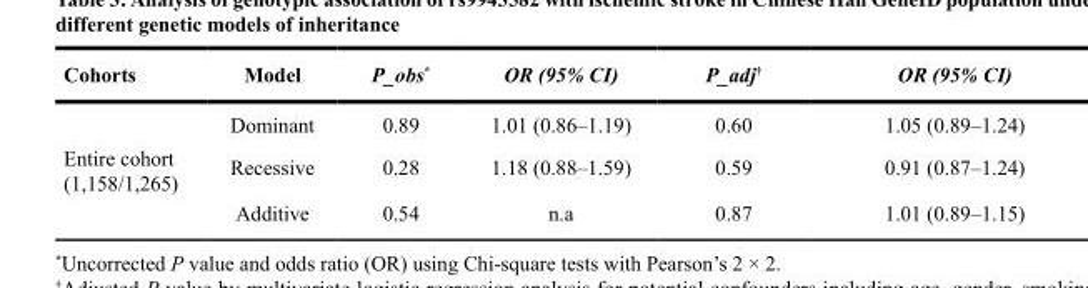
<table><thead><tr><td>Cohorts</td><td>Model</td><td>P_obs*</td><td>OR (95% CI)</td><td>P_adj<sup>†</sup></td><td>OR (95% CI)</td></tr></thead><tbody><tr><td rowspan="3">Entire cohort (1,158/1,265)</td><td>Dominant</td><td>0.89</td><td>1.01 (0.86–1.19)</td><td>0.60</td><td>1.05 (0.89–1.24)</td></tr><tr><td>Recessive</td><td>0.28</td><td>1.18 (0.88–1.59)</td><td>0.59</td><td>0.91 (0.87–1.24)</td></tr><tr><td>Additive</td><td>0.54</td><td>n.a</td><td>0.87</td><td>1.01 (0.89–1.15)</td></tr></tbody></table>